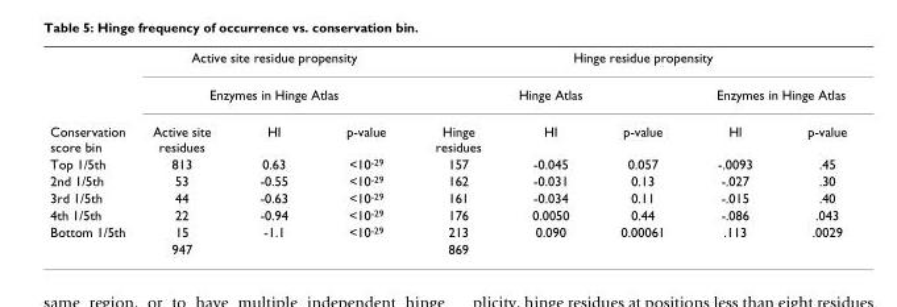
<table><thead><tr><td rowspan="3">Conservation score bin</td><td rowspan="2" colspan="3">Active site residue propensity Enzymes in Hinge Atlas</td><td colspan="5">Hinge residue propensity</td></tr><tr><td colspan="3">Hinge Atlas</td><td colspan="2">Enzymes in Hinge Atlas</td></tr><tr><td>Active site residues</td><td>HI</td><td>p-value</td><td>Hinge residues</td><td>HI</td><td>p-value</td><td>Hl</td><td>p-value</td></tr></thead><tbody><tr><td>Top 1/5th</td><td>813</td><td>0.63</td><td>&lt;10<sup>-29</sup></td><td>157</td><td>-0.045</td><td>0.057</td><td>-.0093</td><td>.45</td></tr><tr><td>2nd 1/5th</td><td>53</td><td>-0.55</td><td>&lt;10<sup>-29</sup></td><td>162</td><td>-0.031</td><td>0.13</td><td>-.027</td><td>.30</td></tr><tr><td>3rd 1/5th</td><td>44</td><td>-0.63</td><td>&lt;10<sup>-29</sup></td><td>161</td><td>-0.034</td><td>0.11</td><td>-.015</td><td>.40</td></tr><tr><td>4th 1/5th</td><td>22</td><td>-0.94</td><td>&lt;10<sup>-29</sup></td><td>176</td><td>0.0050</td><td>0.44</td><td>-.086</td><td>.043</td></tr><tr><td rowspan="2">Bottom 1/5th</td><td>15</td><td>-1.1</td><td>&lt;10<sup>-29</sup></td><td>213</td><td>0.090</td><td>0.00061</td><td>.113</td><td>.0029</td></tr><tr><td>947</td><td></td><td></td><td>869</td><td></td><td></td><td></td><td></td></tr></tbody></table>